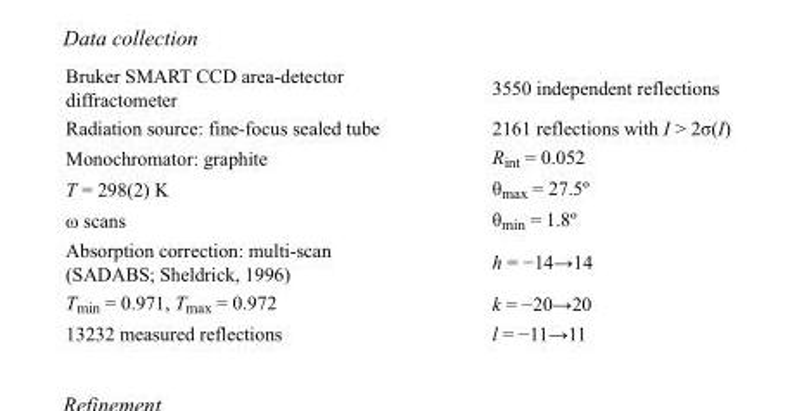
<table><tbody><tr><td>Bruker SMART CCD area-detector diffractometer</td><td>3550 independent reflections</td></tr><tr><td>Radiation source: fine-focus sealed tube</td><td>2161 reflections with I &gt; 2σ(I)</td></tr><tr><td>Monochromator: graphite</td><td>R<sub>int</sub> = 0.052</td></tr><tr><td>T = 298(2) K</td><td>θ<sub>max</sub> = 27.5º</td></tr><tr><td>ω scans</td><td>θ<sub>min</sub> = 1.8º</td></tr><tr><td>Absorption correction: multi-scan (SADABS; Sheldrick, 1996)</td><td>h = −14→14</td></tr><tr><td>T<sub>min</sub> = 0.971, T<sub>max</sub> = 0.972</td><td>k = −20→20</td></tr><tr><td>13232 measured reflections</td><td>l = −11→11</td></tr></tbody></table>